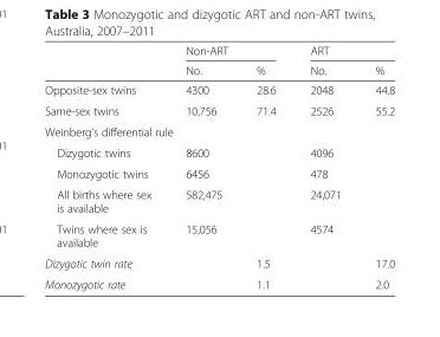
<table><thead><tr><td rowspan="2"></td><td colspan="2">Non-ART</td><td colspan="2">ART</td></tr><tr><td>No.</td><td>%</td><td>No.</td><td>%</td></tr></thead><tbody><tr><td>Opposite-sex twins</td><td>4300</td><td>28.6</td><td>2048</td><td>44.8</td></tr><tr><td>Same-sex twins</td><td>10,756</td><td>71.4</td><td>2526</td><td>55.2</td></tr><tr><td colspan="5">Weinberg’s differential rule</td></tr><tr><td>Dizygotic twins</td><td>8600</td><td></td><td>4096</td><td></td></tr><tr><td>Monozygotic twins</td><td>6456</td><td></td><td>478</td><td></td></tr><tr><td>All births where sex is available</td><td>582,475</td><td></td><td>24,071</td><td></td></tr><tr><td>Twins where sex is available</td><td>15,056</td><td></td><td>4574</td><td></td></tr><tr><td>Dizygotic twin rate</td><td></td><td>1.5</td><td></td><td>17.0</td></tr><tr><td>Monozygotic rate</td><td></td><td>1.1</td><td></td><td>2.0</td></tr></tbody></table>